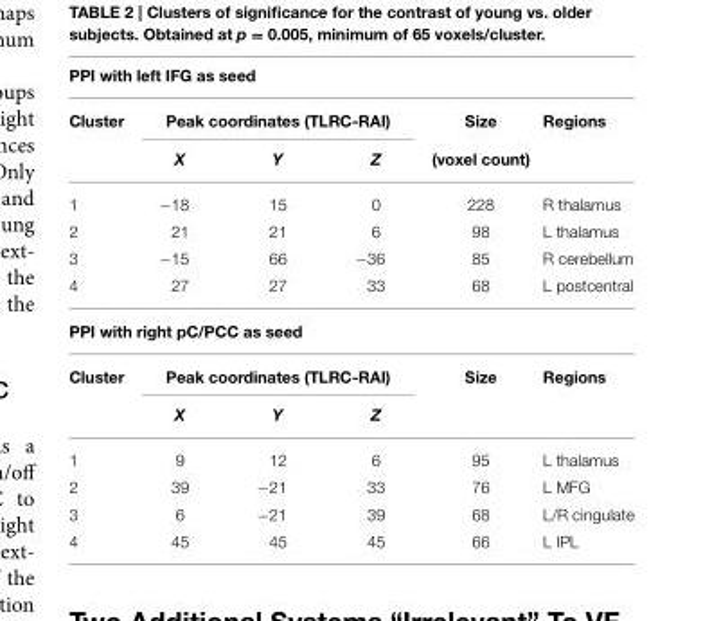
<table><thead><tr><td colspan="6">PPI with left IFG as seed</td></tr><tr><td rowspan="2">Cluster</td><td colspan="3">Peak coordinates (TLRC-RAI)</td><td rowspan="2">Size (voxel count)</td><td rowspan="2">Regions</td></tr><tr><td>X</td><td>Y</td><td>Z</td></tr></thead><tbody><tr><td>1</td><td>−18</td><td>15</td><td>0</td><td>228</td><td>R thalamus</td></tr><tr><td>2</td><td>21</td><td>21</td><td>6</td><td>98</td><td>L thalamus</td></tr><tr><td>3</td><td>−15</td><td>66</td><td>−36</td><td>85</td><td>R cerebellum</td></tr><tr><td>4</td><td>27</td><td>27</td><td>33</td><td>68</td><td>L postcentral</td></tr><tr><td colspan="6">PPI with right pC/PCC as seed</td></tr><tr><td rowspan="2">Cluster</td><td colspan="3">Peak coordinates (TLRC-RAI)</td><td>Size</td><td>Regions</td></tr><tr><td>X</td><td>Y</td><td>Z</td><td></td><td></td></tr><tr><td>1</td><td>9</td><td>12</td><td>6</td><td>95</td><td>L thalamus</td></tr><tr><td>2</td><td>39</td><td>−21</td><td>33</td><td>76</td><td>L MFG</td></tr><tr><td>3</td><td>6</td><td>−21</td><td>39</td><td>68</td><td>L/R cingulate</td></tr><tr><td>4</td><td>45</td><td>45</td><td>45</td><td>66</td><td>L IPL</td></tr></tbody></table>